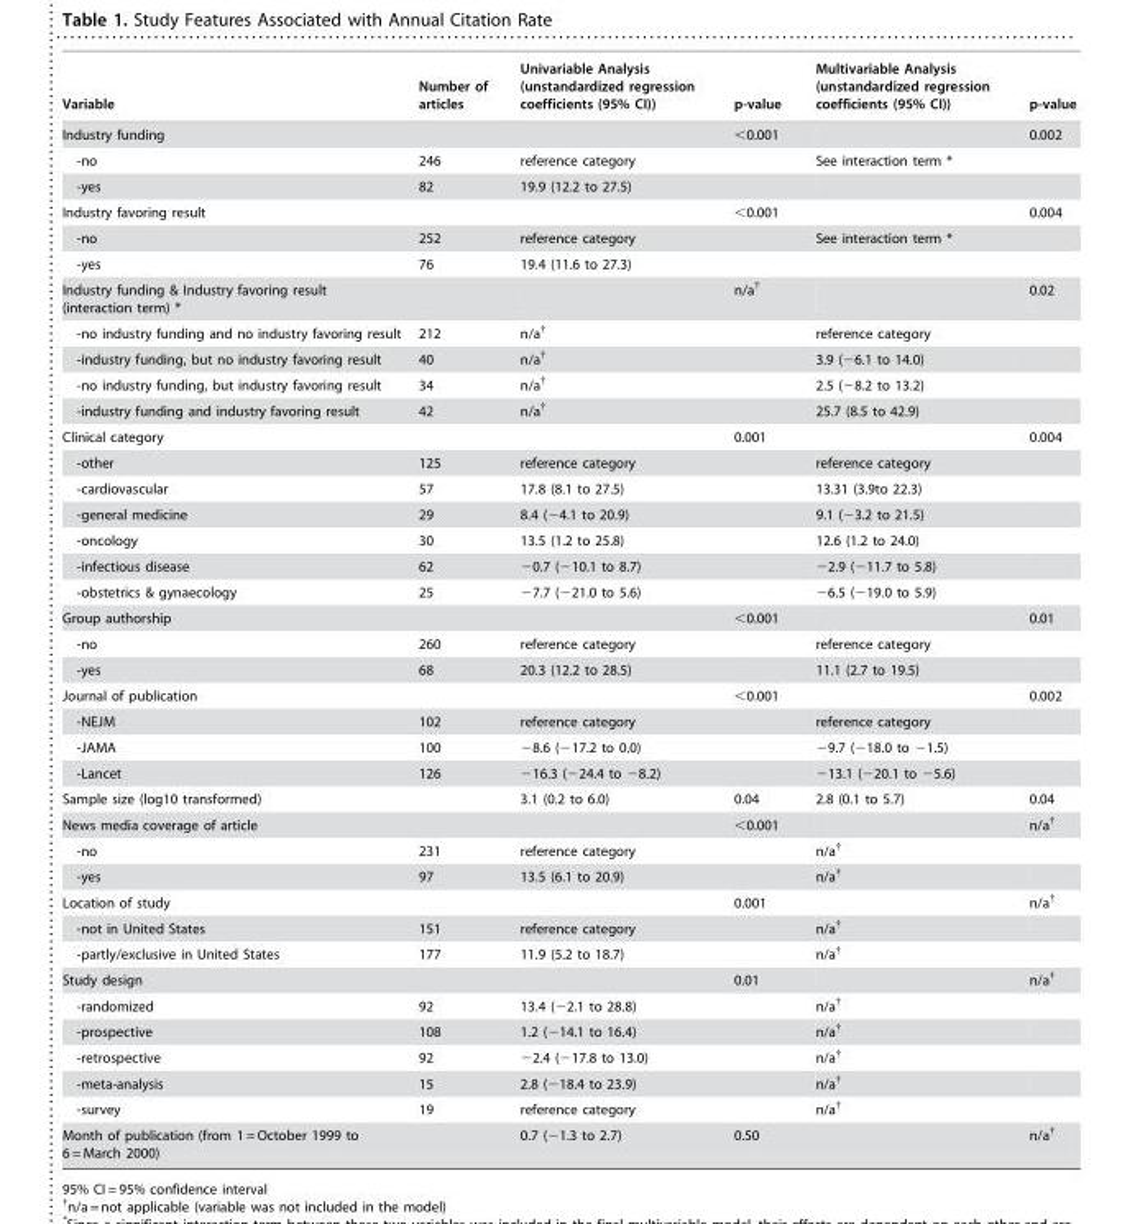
<table><thead><tr><td>Variable</td><td>Number of articles</td><td>Univariable Analysis (unstandardized regression coefficients (95% CI))</td><td>p-value</td><td>Multivariable Analysis (unstandardized regression coefficients (95% CI))</td><td>p-value</td></tr></thead><tbody><tr><td>Industry funding</td><td></td><td></td><td>&lt;0.001</td><td></td><td>0.002</td></tr><tr><td>-no</td><td>246</td><td>reference category</td><td></td><td>See interaction term *</td><td></td></tr><tr><td>-yes</td><td>82</td><td>19.9 (12.2 to 27.5)</td><td></td><td></td><td></td></tr><tr><td>Industry favoring result</td><td></td><td></td><td>&lt;0.001</td><td></td><td>0.004</td></tr><tr><td>-no</td><td>252</td><td>reference category</td><td></td><td>See interaction term *</td><td></td></tr><tr><td>-yes</td><td>76</td><td>19.4 (11.6 to 27.3)</td><td></td><td></td><td></td></tr><tr><td>Industry funding &amp; Industry favoring result (interaction term) *</td><td></td><td></td><td>n/a†</td><td></td><td>0.02</td></tr><tr><td>-no industry funding and no industry favoring result</td><td>212</td><td>n/a†</td><td></td><td>reference category</td><td></td></tr><tr><td>-industry funding, but no industry favoring result</td><td>40</td><td>n/a†</td><td></td><td>3.9 (−6.1 to 14.0)</td><td></td></tr><tr><td>-no industry funding, but industry favoring result</td><td>34</td><td>n/a†</td><td></td><td>2.5 (−8.2 to 13.2)</td><td></td></tr><tr><td>-industry funding and industry favoring result</td><td>42</td><td>n/a†</td><td></td><td>25.7 (8.5 to 42.9)</td><td></td></tr><tr><td>Clinical category</td><td></td><td></td><td>0.001</td><td></td><td>0.004</td></tr><tr><td>-other</td><td>125</td><td>reference category</td><td></td><td>reference category</td><td></td></tr><tr><td>-cardiovascular</td><td>57</td><td>17.8 (8.1 to 27.5)</td><td></td><td>13.31 (3.9to 22.3)</td><td></td></tr><tr><td>-general medicine</td><td>29</td><td>8.4 (−4.1 to 20.9)</td><td></td><td>9.1 (−3.2 to 21.5)</td><td></td></tr><tr><td>-oncology</td><td>30</td><td>13.5 (1.2 to 25.8)</td><td></td><td>12.6 (1.2 to 24.0)</td><td></td></tr><tr><td>-infectious disease</td><td>62</td><td>−0.7 (−10.1 to 8.7)</td><td></td><td>−2.9 (−11.7 to 5.8)</td><td></td></tr><tr><td>-obstetrics &amp; gynaecology</td><td>25</td><td>−7.7 (−21.0 to 5.6)</td><td></td><td>−6.5 (−19.0 to 5.9)</td><td></td></tr><tr><td>Group authorship</td><td></td><td></td><td>&lt;0.001</td><td></td><td>0.01</td></tr><tr><td>-no</td><td>260</td><td>reference category</td><td></td><td>reference category</td><td></td></tr><tr><td>-yes</td><td>68</td><td>20.3 (12.2 to 28.5)</td><td></td><td>11.1 (2.7 to 19.5)</td><td></td></tr><tr><td>Journal of publication</td><td></td><td></td><td>&lt;0.001</td><td></td><td>0.002</td></tr><tr><td>-NEJM</td><td>102</td><td>reference category</td><td></td><td>reference category</td><td></td></tr><tr><td>-JAMA</td><td>100</td><td>−8.6 (−17.2 to 0.0)</td><td></td><td>−9.7 (−18.0 to −1.5)</td><td></td></tr><tr><td>-Lancet</td><td>126</td><td>−16.3 (−24.4 to −8.2)</td><td></td><td>−13.1 (−20.1 to −5.6)</td><td></td></tr><tr><td>Sample size (log10 transformed)</td><td></td><td>3.1 (0.2 to 6.0)</td><td>0.04</td><td>2.8 (0.1 to 5.7)</td><td>0.04</td></tr><tr><td>News media coverage of article</td><td></td><td></td><td>&lt;0.001</td><td></td><td>n/a†</td></tr><tr><td>-no</td><td>231</td><td>reference category</td><td></td><td>n/a†</td><td></td></tr><tr><td>-yes</td><td>97</td><td>13.5 (6.1 to 20.9)</td><td></td><td>n/a†</td><td></td></tr><tr><td>Location of study</td><td></td><td></td><td>0.001</td><td></td><td>n/a†</td></tr><tr><td>-not in United States</td><td>151</td><td>reference category</td><td></td><td>n/a†</td><td></td></tr><tr><td>-partly/exclusive in United States</td><td>177</td><td>11.9 (5.2 to 18.7)</td><td></td><td>n/a†</td><td></td></tr><tr><td>Study design</td><td></td><td></td><td>0.01</td><td></td><td>n/a†</td></tr><tr><td>-randomized</td><td>92</td><td>13.4 (−2.1 to 28.8)</td><td></td><td>n/a†</td><td></td></tr><tr><td>-prospective</td><td>108</td><td>1.2 (−14.1 to 16.4)</td><td></td><td>n/a†</td><td></td></tr><tr><td>-retrospective</td><td>92</td><td>−2.4 (−17.8 to 13.0)</td><td></td><td>n/a†</td><td></td></tr><tr><td>-meta-analysis</td><td>15</td><td>2.8 (−18.4 to 23.9)</td><td></td><td>n/a†</td><td></td></tr><tr><td>-survey</td><td>19</td><td>reference category</td><td></td><td>n/a†</td><td></td></tr><tr><td>Month of publication (from 1 = October 1999 to 6 = March 2000)</td><td></td><td>0.7 (−1.3 to 2.7)</td><td>0.50</td><td></td><td>n/a†</td></tr></tbody></table>